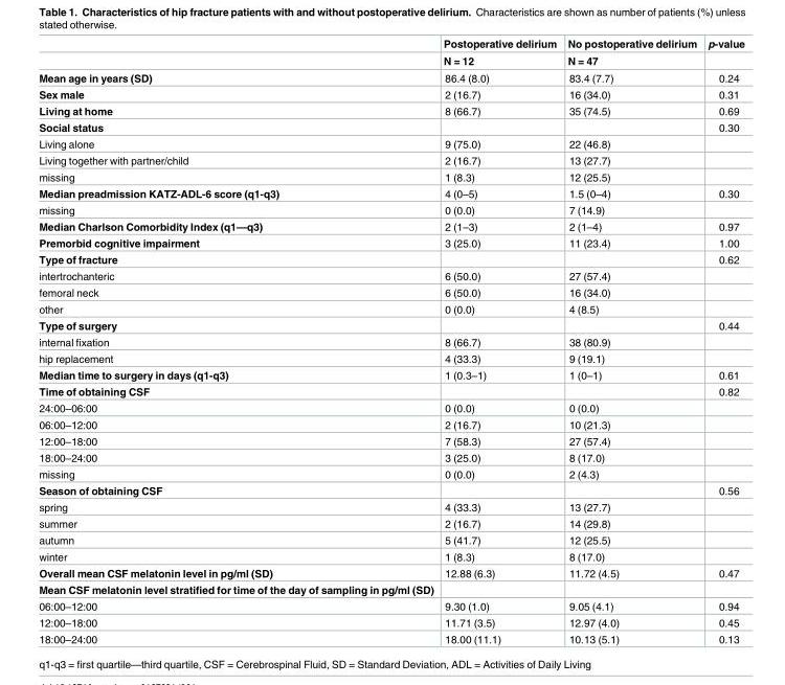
<table><thead><tr><td rowspan="2"></td><td rowspan="2">Postoperative delirium N = 12</td><td rowspan="2">No postoperative delirium N = 47</td><td rowspan="2">p-value</td></tr><tr></tr></thead><tbody><tr><td>Mean age in years (SD)</td><td>86.4 (8.0)</td><td>83.4 (7.7)</td><td>0.24</td></tr><tr><td>Sex male</td><td>2 (16.7)</td><td>16 (34.0)</td><td>0.31</td></tr><tr><td>Living at home</td><td>8 (66.7)</td><td>35 (74.5)</td><td>0.69</td></tr><tr><td>Social status</td><td></td><td></td><td>0.30</td></tr><tr><td>Living alone</td><td>9 (75.0)</td><td>22 (46.8)</td><td></td></tr><tr><td>Living together with partner/child</td><td>2 (16.7)</td><td>13 (27.7)</td><td></td></tr><tr><td>missing</td><td>1 (8.3)</td><td>12 (25.5)</td><td></td></tr><tr><td>Median preadmission KATZ-ADL-6 score (q1-q3)</td><td>4 (0–5)</td><td>1.5 (0–4)</td><td>0.30</td></tr><tr><td>missing</td><td>0 (0.0)</td><td>7 (14.9)</td><td></td></tr><tr><td>Median Charlson Comorbidity Index (q1—q3)</td><td>2 (1–3)</td><td>2 (1–4)</td><td>0.97</td></tr><tr><td>Premorbid cognitive impairment</td><td>3 (25.0)</td><td>11 (23.4)</td><td>1.00</td></tr><tr><td>Type of fracture</td><td></td><td></td><td>0.62</td></tr><tr><td>intertrochanteric</td><td>6 (50.0)</td><td>27 (57.4)</td><td></td></tr><tr><td>femoral neck</td><td>6 (50.0)</td><td>16 (34.0)</td><td></td></tr><tr><td>other</td><td>0 (0.0)</td><td>4 (8.5)</td><td></td></tr><tr><td>Type of surgery</td><td></td><td></td><td>0.44</td></tr><tr><td>internal fixation</td><td>8 (66.7)</td><td>38 (80.9)</td><td></td></tr><tr><td>hip replacement</td><td>4 (33.3)</td><td>9 (19.1)</td><td></td></tr><tr><td>Median time to surgery in days (q1-q3)</td><td>1 (0.3–1)</td><td>1 (0–1)</td><td>0.61</td></tr><tr><td>Time of obtaining CSF</td><td></td><td></td><td>0.82</td></tr><tr><td>24:00–06:00</td><td>0 (0.0)</td><td>0 (0.0)</td><td></td></tr><tr><td>06:00–12:00</td><td>2 (16.7)</td><td>10 (21.3)</td><td></td></tr><tr><td>12:00–18:00</td><td>7 (58.3)</td><td>27 (57.4)</td><td></td></tr><tr><td>18:00–24:00</td><td>3 (25.0)</td><td>8 (17.0)</td><td></td></tr><tr><td>missing</td><td>0 (0.0)</td><td>2 (4.3)</td><td></td></tr><tr><td>Season of obtaining CSF</td><td></td><td></td><td>0.56</td></tr><tr><td>spring</td><td>4 (33.3)</td><td>13 (27.7)</td><td></td></tr><tr><td>summer</td><td>2 (16.7)</td><td>14 (29.8)</td><td></td></tr><tr><td>autumn</td><td>5 (41.7)</td><td>12 (25.5)</td><td></td></tr><tr><td>winter</td><td>1 (8.3)</td><td>8 (17.0)</td><td></td></tr><tr><td>Overall mean CSF melatonin level in pg/ml (SD)</td><td>12.88 (6.3)</td><td>11.72 (4.5)</td><td>0.47</td></tr><tr><td colspan="4">Mean CSF melatonin level stratified for time of the day of sampling in pg/ml (SD)</td></tr><tr><td>06:00–12:00</td><td>9.30 (1.0)</td><td>9.05 (4.1)</td><td>0.94</td></tr><tr><td>12:00–18:00</td><td>11.71 (3.5)</td><td>12.97 (4.0)</td><td>0.45</td></tr><tr><td>18:00–24:00</td><td>18.00 (11.1)</td><td>10.13 (5.1)</td><td>0.13</td></tr></tbody></table>